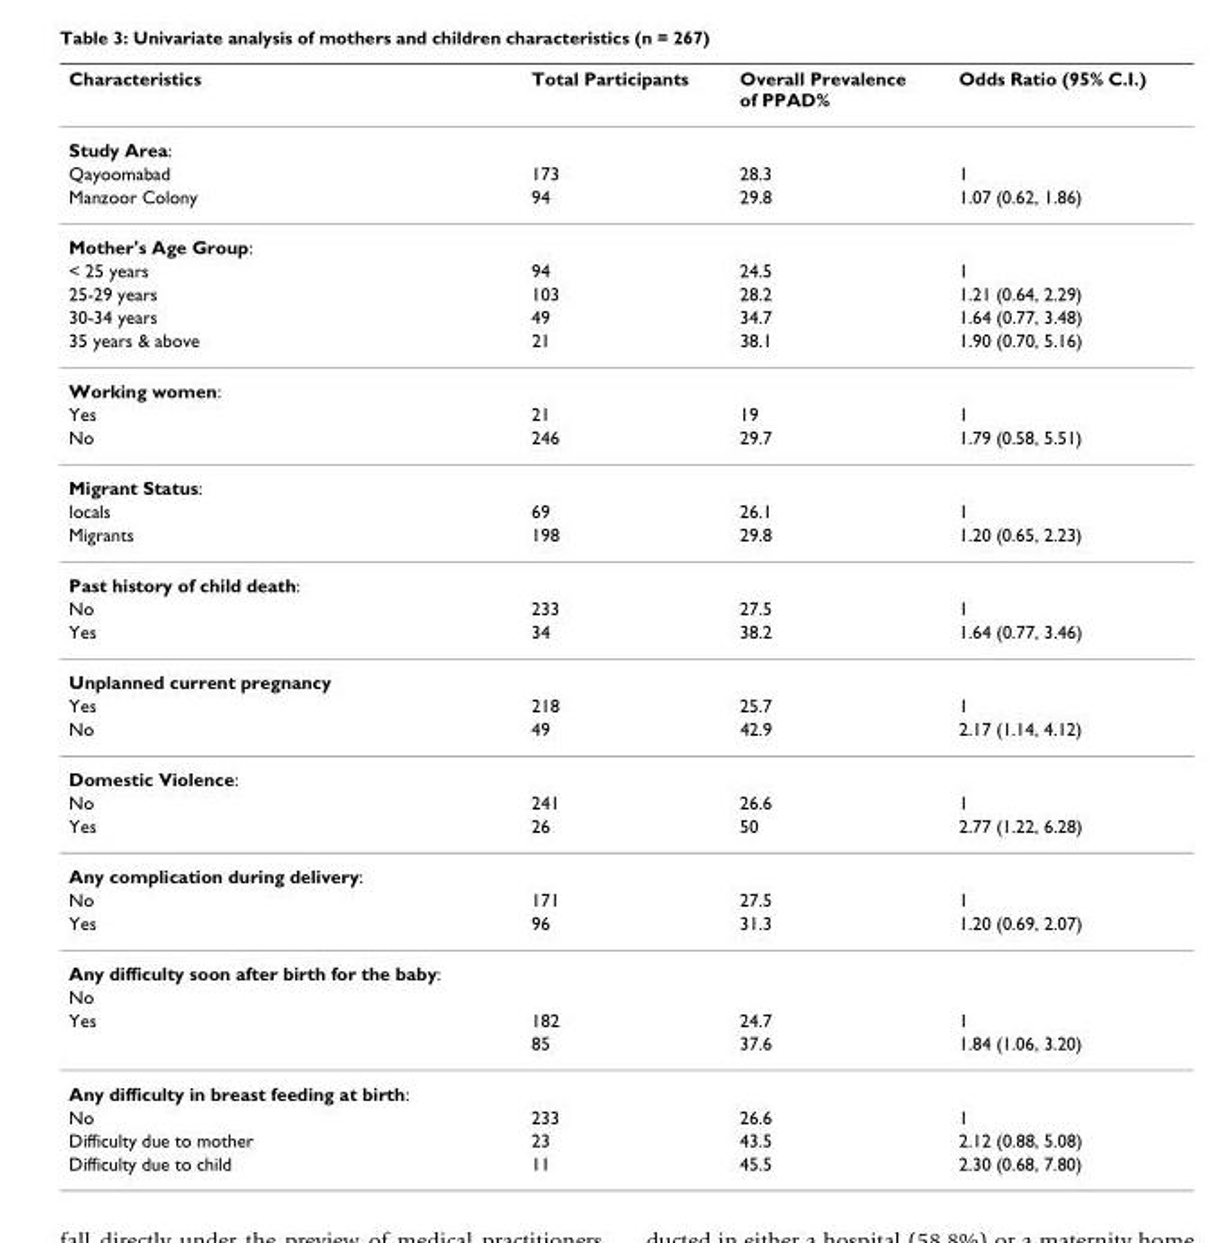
<table><thead><tr><td>Characteristics</td><td>Total Participants</td><td>Overall Prevalence of PPAD%</td><td>Odds Ratio (95% C.I.)</td></tr></thead><tbody><tr><td colspan="4">Study Area:</td></tr><tr><td>Qayoomabad</td><td>173</td><td>28.3</td><td>1</td></tr><tr><td>Manzoor Colony</td><td>94</td><td>29.8</td><td>1.07 (0.62, 1.86)</td></tr><tr><td colspan="4">Mother&#x27;s Age Group:</td></tr><tr><td>&lt; 25 years</td><td>94</td><td>24.5</td><td>1</td></tr><tr><td>25-29 years</td><td>103</td><td>28.2</td><td>1.21 (0.64, 2.29)</td></tr><tr><td>30-34 years</td><td>49</td><td>34.7</td><td>1.64 (0.77, 3.48)</td></tr><tr><td>35 years &amp; above</td><td>21</td><td>38.1</td><td>1.90 (0.70, 5.16)</td></tr><tr><td colspan="4">Working women:</td></tr><tr><td>Yes</td><td>21</td><td>19</td><td>1</td></tr><tr><td>No</td><td>246</td><td>29.7</td><td>1.79 (0.58, 5.51)</td></tr><tr><td colspan="4">Migrant Status:</td></tr><tr><td>locals</td><td>69</td><td>26.1</td><td>1</td></tr><tr><td>Migrants</td><td>198</td><td>29.8</td><td>1.20 (0.65, 2.23)</td></tr><tr><td colspan="4">Past history of child death:</td></tr><tr><td>No</td><td>233</td><td>27.5</td><td>1</td></tr><tr><td>Yes</td><td>34</td><td>38.2</td><td>1.64 (0.77, 3.46)</td></tr><tr><td colspan="4">Unplanned current pregnancy</td></tr><tr><td>Yes</td><td>218</td><td>25.7</td><td>1</td></tr><tr><td>No</td><td>49</td><td>42.9</td><td>2.17 (1.14, 4.12)</td></tr><tr><td colspan="4">Domestic Violence:</td></tr><tr><td>No</td><td>241</td><td>26.6</td><td>1</td></tr><tr><td>Yes</td><td>26</td><td>50</td><td>2.77 (1.22, 6.28)</td></tr><tr><td colspan="4">Any complication during delivery:</td></tr><tr><td>No</td><td>171</td><td>27.5</td><td>1</td></tr><tr><td>Yes</td><td>96</td><td>31.3</td><td>1.20 (0.69, 2.07)</td></tr><tr><td colspan="4">Any difficulty soon after birth for the baby:</td></tr><tr><td colspan="4">No</td></tr><tr><td rowspan="2">Yes</td><td>182</td><td>24.7</td><td>1</td></tr><tr><td>85</td><td>37.6</td><td>1.84 (1.06, 3.20)</td></tr><tr><td colspan="4">Any difficulty in breast feeding at birth:</td></tr><tr><td>No</td><td>233</td><td>26.6</td><td>1</td></tr><tr><td>Difficulty due to mother</td><td>23</td><td>43.5</td><td>2.12 (0.88, 5.08)</td></tr><tr><td>Difficulty due to child</td><td>11</td><td>45.5</td><td>2.30 (0.68, 7.80)</td></tr></tbody></table>